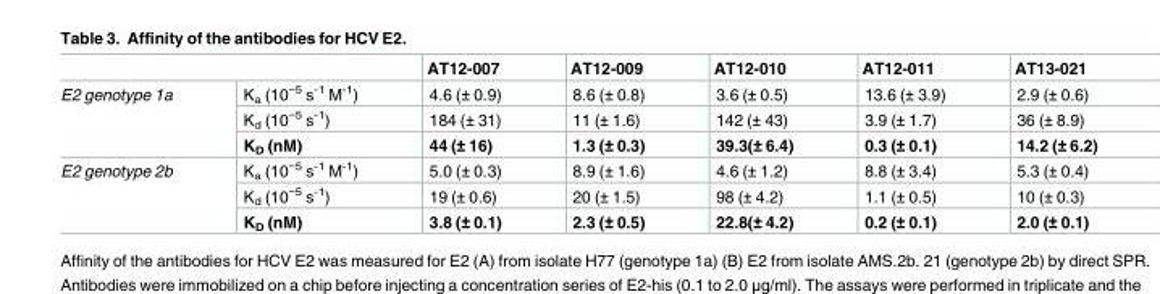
<table><thead><tr><td></td><td></td><td>AT12-007</td><td>AT12-009</td><td>AT12-010</td><td>AT12-011</td><td>AT13-021</td></tr></thead><tbody><tr><td rowspan="3">E2 genotype 1a</td><td>K<sub>a</sub> (10<sup>−5</sup> s<sup>-1</sup> M<sup>-1</sup>)</td><td>4.6 (± 0.9)</td><td>8.6 (± 0.8)</td><td>3.6 (± 0.5)</td><td>13.6 (± 3.9)</td><td>2.9 (± 0.6)</td></tr><tr><td>K<sub>d</sub> (10<sup>−5</sup> s<sup>-1</sup>)</td><td>184 (± 31)</td><td>11 (± 1.6)</td><td>142 (± 43)</td><td>3.9 (± 1.7)</td><td>36 (± 8.9)</td></tr><tr><td>K<sub>D</sub> (nM)</td><td>44 (± 16)</td><td>1.3 (± 0.3)</td><td>39.3(± 6.4)</td><td>0.3 (± 0.1)</td><td>14.2 (± 6.2)</td></tr><tr><td rowspan="3">E2 genotype 2b</td><td>K<sub>a</sub> (10<sup>−5</sup> s<sup>-1</sup> M<sup>-1</sup>)</td><td>5.0 (± 0.3)</td><td>8.9 (± 1.6)</td><td>4.6 (± 1.2)</td><td>8.8 (± 3.4)</td><td>5.3 (± 0.4)</td></tr><tr><td>K<sub>d</sub> (10<sup>−5</sup> s<sup>-1</sup>)</td><td>19 (± 0.6)</td><td>20 (± 1.5)</td><td>98 (± 4.2)</td><td>1.1 (± 0.5)</td><td>10 (± 0.3)</td></tr><tr><td>K<sub>D</sub> (nM)</td><td>3.8 (± 0.1)</td><td>2.3 (± 0.5)</td><td>22.8(± 4.2)</td><td>0.2 (± 0.1)</td><td>2.0 (± 0.1)</td></tr></tbody></table>